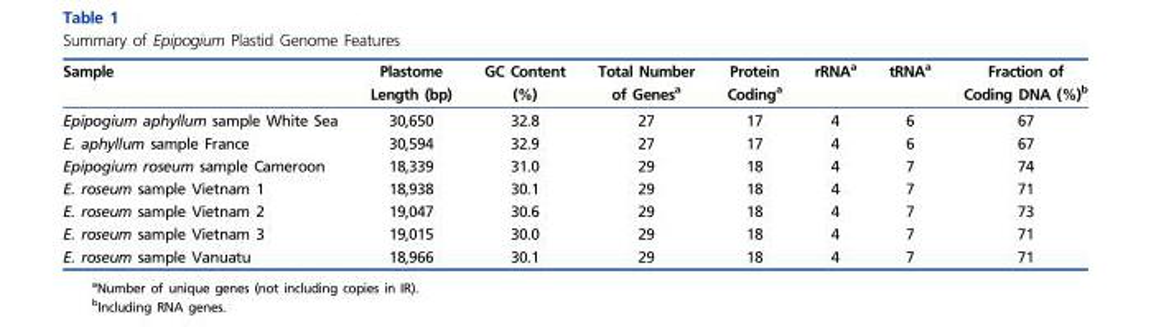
<table><thead><tr><td>Sample</td><td>Plastome Length (bp)</td><td>GC Content (%)</td><td>Total Number of Genes<sup>a</sup></td><td>Protein Coding<sup>a</sup></td><td>rRNA<sup>a</sup></td><td>tRNA<sup>a</sup></td><td>Fraction of Coding DNA (%)<sup>b</sup></td></tr></thead><tbody><tr><td>Epipogium aphyllum sample White Sea</td><td>30,650</td><td>32.8</td><td>27</td><td>17</td><td>4</td><td>6</td><td>67</td></tr><tr><td>E. aphyllum sample France</td><td>30,594</td><td>32.9</td><td>27</td><td>17</td><td>4</td><td>6</td><td>67</td></tr><tr><td>Epipogium roseum sample Cameroon</td><td>18,339</td><td>31.0</td><td>29</td><td>18</td><td>4</td><td>7</td><td>74</td></tr><tr><td>E. roseum sample Vietnam 1</td><td>18,938</td><td>30.1</td><td>29</td><td>18</td><td>4</td><td>7</td><td>71</td></tr><tr><td>E. roseum sample Vietnam 2</td><td>19,047</td><td>30.6</td><td>29</td><td>18</td><td>4</td><td>7</td><td>73</td></tr><tr><td>E. roseum sample Vietnam 3</td><td>19,015</td><td>30.0</td><td>29</td><td>18</td><td>4</td><td>7</td><td>71</td></tr><tr><td>E. roseum sample Vanuatu</td><td>18,966</td><td>30.1</td><td>29</td><td>18</td><td>4</td><td>7</td><td>71</td></tr></tbody></table>